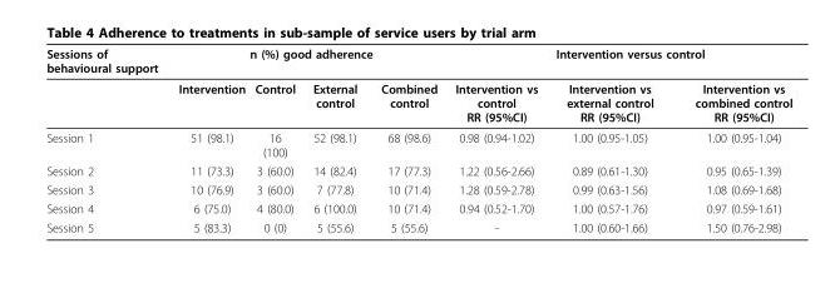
<table><thead><tr><td rowspan="2">Sessions of behavioural support</td><td colspan="4">n (%) good adherence</td><td colspan="3">Intervention versus control</td></tr><tr><td>Intervention</td><td>Control</td><td>External control</td><td>Combined control</td><td>Intervention vs control RR (95%CI)</td><td>Intervention vs external control RR (95%CI)</td><td>Intervention vs combined control RR (95%CI)</td></tr></thead><tbody><tr><td>Session 1</td><td>51 (98.1)</td><td>16 (100)</td><td>52 (98.1)</td><td>68 (98.6)</td><td>0.98 (0.94-1.02)</td><td>1.00 (0.95-1.05)</td><td>1.00 (0.95-1.04)</td></tr><tr><td>Session 2</td><td>11 (73.3)</td><td>3 (60.0)</td><td>14 (82.4)</td><td>17 (77.3)</td><td>1.22 (0.56-2.66)</td><td>0.89 (0.61-1.30)</td><td>0.95 (0.65-1.39)</td></tr><tr><td>Session 3</td><td>10 (76.9)</td><td>3 (60.0)</td><td>7 (77.8)</td><td>10 (71.4)</td><td>1.28 (0.59-2.78)</td><td>0.99 (0.63-1.56)</td><td>1.08 (0.69-1.68)</td></tr><tr><td>Session 4</td><td>6 (75.0)</td><td>4 (80.0)</td><td>6 (100.0)</td><td>10 (71.4)</td><td>0.94 (0.52-1.70)</td><td>1.00 (0.57-1.76)</td><td>0.97 (0.59-1.61)</td></tr><tr><td>Session 5</td><td>5 (83.3)</td><td>0 (0)</td><td>5 (55.6)</td><td>5 (55.6)</td><td>-</td><td>1.00 (0.60-1.66)</td><td>1.50 (0.76-2.98)</td></tr></tbody></table>